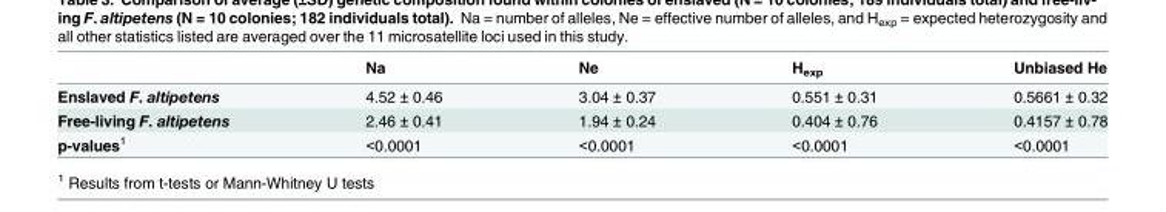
<table><thead><tr><td></td><td>Na</td><td>Ne</td><td>H<sub>exp</sub></td><td>Unbiased He</td></tr></thead><tbody><tr><td>Enslaved F. altipetens</td><td>4.52 ± 0.46</td><td>3.04 ± 0.37</td><td>0.551 ± 0.31</td><td>0.5661 ± 0.32</td></tr><tr><td>Free-living F. altipetens</td><td>2.46 ± 0.41</td><td>1.94 ± 0.24</td><td>0.404 ± 0.76</td><td>0.4157 ± 0.78</td></tr><tr><td>p-values<sup>1</sup></td><td>&lt;0.0001</td><td>&lt;0.0001</td><td>&lt;0.0001</td><td>&lt;0.0001</td></tr></tbody></table>